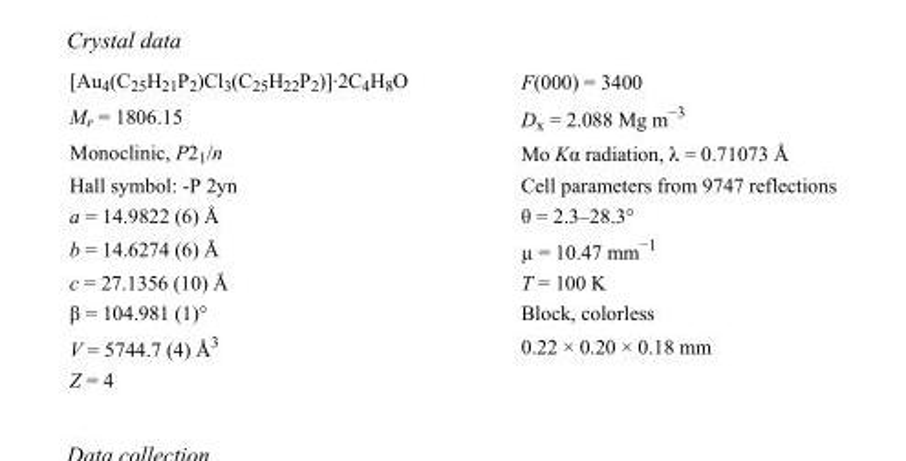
<table><tbody><tr><td>[Au<sub>4</sub>(C<sub>25</sub>H<sub>21</sub>P<sub>2</sub>)Cl<sub>3</sub>(C<sub>25</sub>H<sub>22</sub>P<sub>2</sub>)]·2C<sub>4</sub>H<sub>8</sub>O</td><td>F(000) = 3400</td></tr><tr><td>M<sub>r</sub> = 1806.15</td><td>D<sub>x</sub> = 2.088 Mg m<sup>−3</sup></td></tr><tr><td>Monoclinic, P2<sub>1</sub>/n</td><td>Mo Kα radiation, λ = 0.71073 Å</td></tr><tr><td>Hall symbol: -P 2yn</td><td>Cell parameters from 9747 reflections</td></tr><tr><td>a = 14.9822 (6) Å</td><td>θ = 2.3–28.3°</td></tr><tr><td>b = 14.6274 (6) Å</td><td>µ = 10.47 mm<sup>−1</sup></td></tr><tr><td>c = 27.1356 (10) Å</td><td>T = 100 K</td></tr><tr><td>β = 104.981 (1)°</td><td>Block, colorless</td></tr><tr><td>V = 5744.7 (4) Å<sup>3</sup></td><td>0.22 × 0.20 × 0.18 mm</td></tr><tr><td>Z = 4</td><td></td></tr></tbody></table>